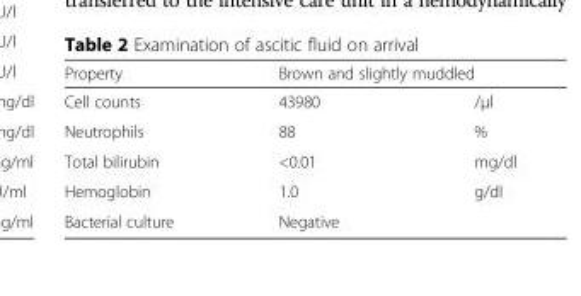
<table><thead><tr><td rowspan="2">Property Cell counts</td><td colspan="2">Brown and slightly muddled</td></tr><tr><td>43980</td><td>/μl</td></tr></thead><tbody><tr><td>Neutrophils</td><td>88</td><td>%</td></tr><tr><td>Total bilirubin</td><td>&lt;0.01</td><td>mg/dl</td></tr><tr><td>Hemoglobin</td><td>1.0</td><td>g/dl</td></tr><tr><td>Bacterial culture</td><td colspan="2">Negative</td></tr></tbody></table>